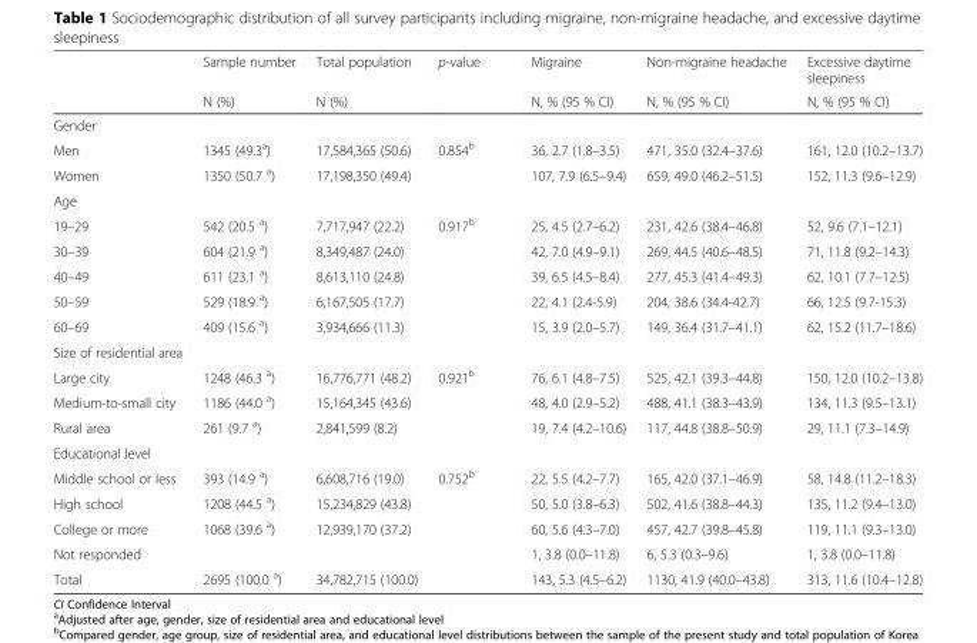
<table><thead><tr><td rowspan="2"></td><td rowspan="2">Sample number N (%)</td><td rowspan="2">Total population N (%)</td><td rowspan="2">p-value</td><td rowspan="2">Migraine N, % (95 % CI)</td><td rowspan="2">Non-migraine headache N, % (95 % CI)</td><td rowspan="2">Excessive daytime sleepiness N, % (95 % CI)</td></tr><tr></tr></thead><tbody><tr><td colspan="7">Gender</td></tr><tr><td>Men</td><td>1345 (49.3<sup>a</sup>)</td><td>17,584,365 (50.6)</td><td rowspan="2">0.854<sup>b</sup></td><td>36, 2.7 (1.8–3.5)</td><td>471, 35.0 (32.4–37.6)</td><td>161, 12.0 (10.2–13.7)</td></tr><tr><td>Women</td><td>1350 (50.7 <sup>a</sup>)</td><td>17,198,350 (49.4)</td><td>107, 7.9 (6.5–9.4)</td><td>659, 49.0 (46.2–51.5)</td><td>152, 11.3 (9.6–12.9)</td></tr><tr><td colspan="7">Age</td></tr><tr><td>19–29</td><td>542 (20.5 <sup>a</sup>)</td><td>7,717,947 (22.2)</td><td rowspan="5">0.917<sup>b</sup></td><td>25, 4.5 (2.7–6.2)</td><td>231, 42.6 (38.4–46.8)</td><td>52, 9.6 (7.1–12.1)</td></tr><tr><td>30–39</td><td>604 (21.9 <sup>a</sup>)</td><td>8,349,487 (24.0)</td><td>42, 7.0 (4.9–9.1)</td><td>269, 44.5 (40.6–48.5)</td><td>71, 11.8 (9.2–14.3)</td></tr><tr><td>40–49</td><td>611 (23.1 <sup>a</sup>)</td><td>8,613,110 (24.8)</td><td>39, 6.5 (4.5–8.4)</td><td>277, 45.3 (41.4–49.3)</td><td>62, 10.1 (7.7–12.5)</td></tr><tr><td>50–59</td><td>529 (18.9 <sup>a</sup>)</td><td>6,167,505 (17.7)</td><td>22, 4.1 (2.4-5.9)</td><td>204, 38.6 (34.4-42.7)</td><td>66, 12.5 (9.7-15.3)</td></tr><tr><td>60–69</td><td>409 (15.6 <sup>a</sup>)</td><td>3,934,666 (11.3)</td><td>15, 3.9 (2.0–5.7)</td><td>149, 36.4 (31.7–41.1)</td><td>62, 15.2 (11.7–18.6)</td></tr><tr><td colspan="7">Size of residential area</td></tr><tr><td>Large city</td><td>1248 (46.3 <sup>a</sup>)</td><td>16,776,771 (48.2)</td><td rowspan="3">0.921<sup>b</sup></td><td>76, 6.1 (4.8–7.5)</td><td>525, 42.1 (39.3–44.8)</td><td>150, 12.0 (10.2–13.8)</td></tr><tr><td>Medium-to-small city</td><td>1186 (44.0 <sup>a</sup>)</td><td>15,164,345 (43.6)</td><td>48, 4.0 (2.9–5.2)</td><td>488, 41.1 (38.3–43.9)</td><td>134, 11.3 (9.5–13.1)</td></tr><tr><td>Rural area</td><td>261 (9.7 <sup>a</sup>)</td><td>2,841,599 (8.2)</td><td>19, 7.4 (4.2–10.6)</td><td>117, 44.8 (38.8–50.9)</td><td>29, 11.1 (7.3–14.9)</td></tr><tr><td colspan="7">Educational level</td></tr><tr><td>Middle school or less</td><td>393 (14.9 <sup>a</sup>)</td><td>6,608,716 (19.0)</td><td rowspan="3">0.752<sup>b</sup></td><td>22, 5.5 (4.2–7.7)</td><td>165, 42.0 (37.1–46.9)</td><td>58, 14.8 (11.2–18.3)</td></tr><tr><td>High school</td><td>1208 (44.5 <sup>a</sup>)</td><td>15,234,829 (43.8)</td><td>50, 5.0 (3.8–6.3)</td><td>502, 41.6 (38.8–44.3)</td><td>135, 11.2 (9.4–13.0)</td></tr><tr><td>College or more</td><td>1068 (39.6 <sup>a</sup>)</td><td>12,939,170 (37.2)</td><td>60, 5.6 (4.3–7.0)</td><td>457, 42.7 (39.8–45.8)</td><td>119, 11.1 (9.3–13.0)</td></tr><tr><td>Not responded</td><td></td><td></td><td></td><td>1, 3.8 (0.0–11.8)</td><td>6, 5.3 (0.3–9.6)</td><td>1, 3.8 (0.0–11.8)</td></tr><tr><td>Total</td><td>2695 (100.0 <sup>a</sup>)</td><td>34,782,715 (100.0)</td><td></td><td>143, 5.3 (4.5–6.2)</td><td>1130, 41.9 (40.0–43.8)</td><td>313, 11.6 (10.4–12.8)</td></tr></tbody></table>